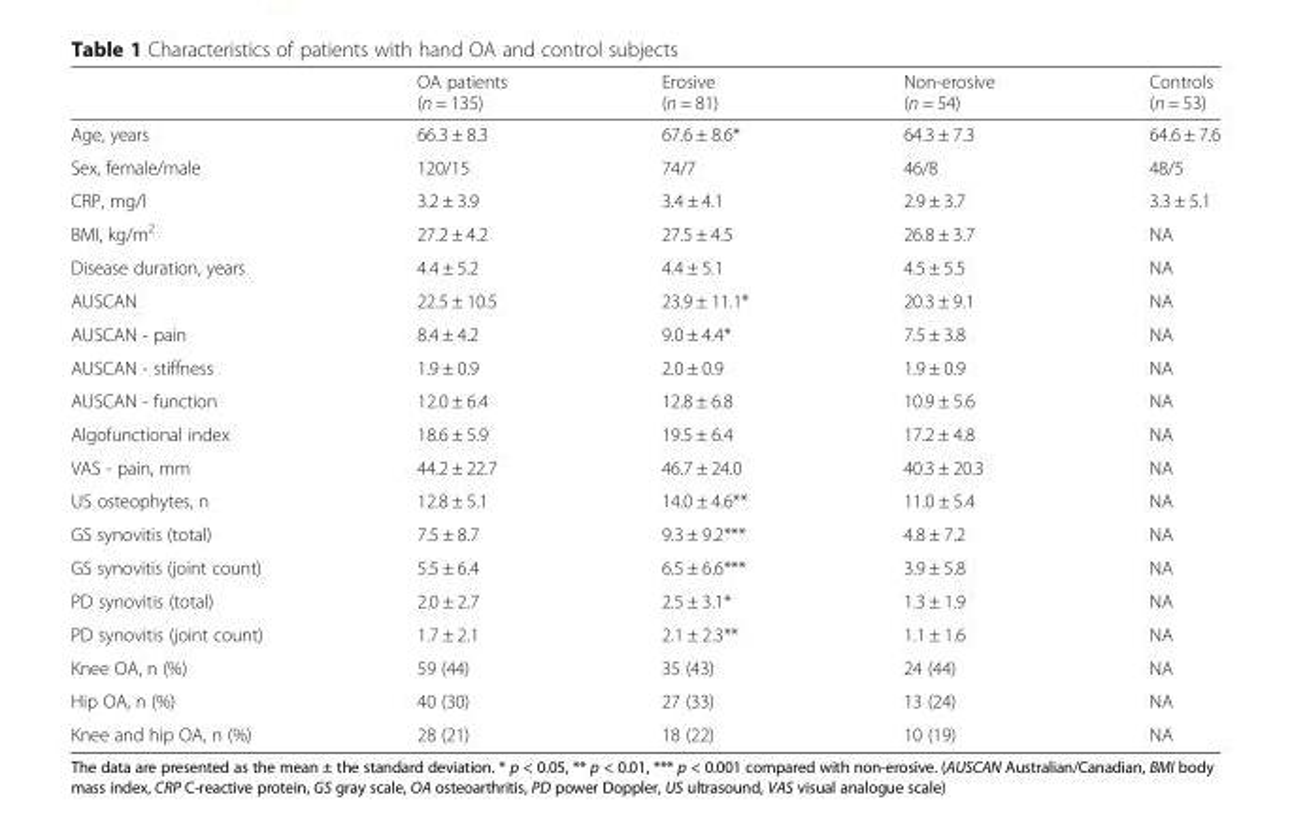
<table><thead><tr><td></td><td>OA patients (n = 135)</td><td>Erosive (n = 81)</td><td>Non-erosive (n = 54)</td><td>Controls (n = 53)</td></tr></thead><tbody><tr><td>Age, years</td><td>66.3 ± 8.3</td><td>67.6 ± 8.6*</td><td>64.3 ± 7.3</td><td>64.6 ± 7.6</td></tr><tr><td>Sex, female/male</td><td>120/15</td><td>74/7</td><td>46/8</td><td>48/5</td></tr><tr><td>CRP, mg/l</td><td>3.2 ± 3.9</td><td>3.4 ± 4.1</td><td>2.9 ± 3.7</td><td>3.3 ± 5.1</td></tr><tr><td>BMI, kg/m<sup>2</sup></td><td>27.2 ± 4.2</td><td>27.5 ± 4.5</td><td>26.8 ± 3.7</td><td>NA</td></tr><tr><td>Disease duration, years</td><td>4.4 ± 5.2</td><td>4.4 ± 5.1</td><td>4.5 ± 5.5</td><td>NA</td></tr><tr><td>AUSCAN</td><td>22.5 ± 10.5</td><td>23.9 ± 11.1*</td><td>20.3 ± 9.1</td><td>NA</td></tr><tr><td>AUSCAN - pain</td><td>8.4 ± 4.2</td><td>9.0 ± 4.4*</td><td>7.5 ± 3.8</td><td>NA</td></tr><tr><td>AUSCAN - stiffness</td><td>1.9 ± 0.9</td><td>2.0 ± 0.9</td><td>1.9 ± 0.9</td><td>NA</td></tr><tr><td>AUSCAN - function</td><td>12.0 ± 6.4</td><td>12.8 ± 6.8</td><td>10.9 ± 5.6</td><td>NA</td></tr><tr><td>Algofunctional index</td><td>18.6 ± 5.9</td><td>19.5 ± 6.4</td><td>17.2 ± 4.8</td><td>NA</td></tr><tr><td>VAS - pain, mm</td><td>44.2 ± 22.7</td><td>46.7 ± 24.0</td><td>40.3 ± 20.3</td><td>NA</td></tr><tr><td>US osteophytes, n</td><td>12.8 ± 5.1</td><td>14.0 ± 4.6**</td><td>11.0 ± 5.4</td><td>NA</td></tr><tr><td>GS synovitis (total)</td><td>7.5 ± 8.7</td><td>9.3 ± 9.2***</td><td>4.8 ± 7.2</td><td>NA</td></tr><tr><td>GS synovitis (joint count)</td><td>5.5 ± 6.4</td><td>6.5 ± 6.6***</td><td>3.9 ± 5.8</td><td>NA</td></tr><tr><td>PD synovitis (total)</td><td>2.0 ± 2.7</td><td>2.5 ± 3.1*</td><td>1.3 ± 1.9</td><td>NA</td></tr><tr><td>PD synovitis (joint count)</td><td>1.7 ± 2.1</td><td>2.1 ± 2.3**</td><td>1.1 ± 1.6</td><td>NA</td></tr><tr><td>Knee OA, n (%)</td><td>59 (44)</td><td>35 (43)</td><td>24 (44)</td><td>NA</td></tr><tr><td>Hip OA, n (%)</td><td>40 (30)</td><td>27 (33)</td><td>13 (24)</td><td>NA</td></tr><tr><td>Knee and hip OA, n (%)</td><td>28 (21)</td><td>18 (22)</td><td>10 (19)</td><td>NA</td></tr></tbody></table>